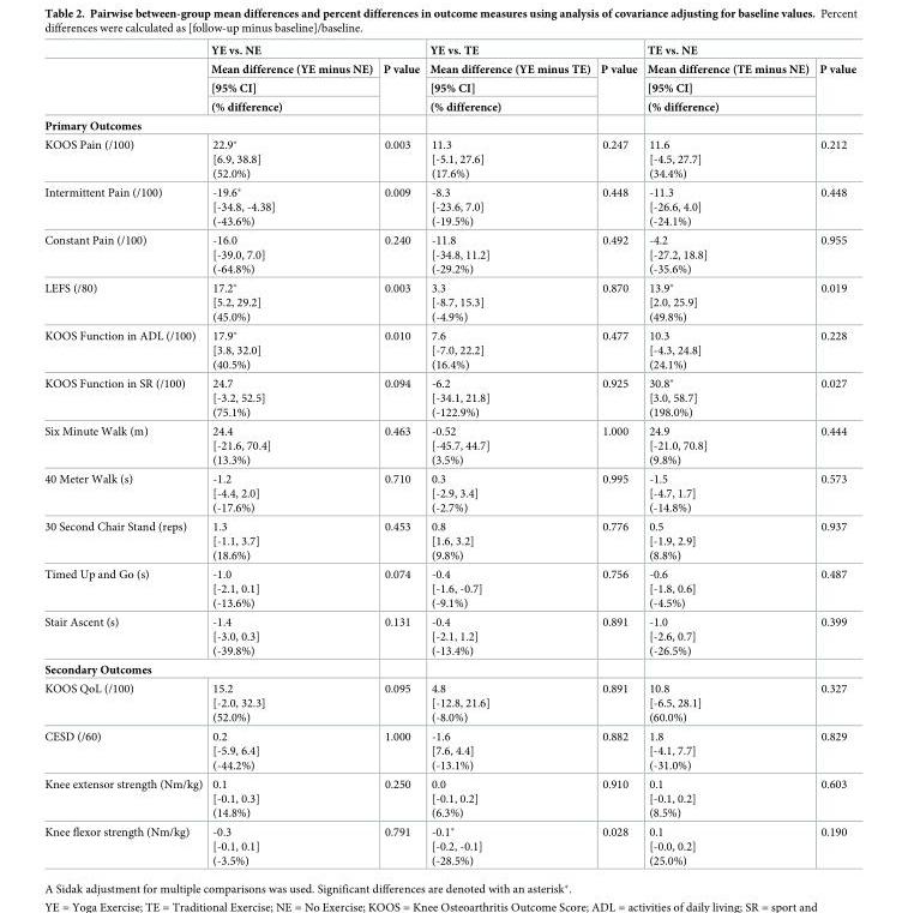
<table><thead><tr><td rowspan="4"></td><td colspan="2">YE vs. NE</td><td colspan="2">YE vs. TE</td><td colspan="2">TE vs. NE</td></tr><tr><td rowspan="3">Mean difference (YE minus NE) [95% CI] (% difference)</td><td rowspan="3">P value</td><td rowspan="3">Mean difference (YE minus TE) [95% CI] (% difference)</td><td rowspan="3">P value</td><td rowspan="3">Mean difference (TE minus NE) [95% CI] (% difference)</td><td rowspan="3">P value</td></tr><tr></tr><tr></tr></thead><tbody><tr><td colspan="7">Primary Outcomes</td></tr><tr><td>KOOS Pain (/100)</td><td>22.9* [6.9, 38.8] (52.0%)</td><td>0.003</td><td>11.3 [-5.1, 27.6] (17.6%)</td><td>0.247</td><td>11.6 [-4.5, 27.7] (34.4%)</td><td>0.212</td></tr><tr><td>Intermittent Pain (/100)</td><td>-19.6* [-34.8, -4.38] (-43.6%)</td><td>0.009</td><td>-8.3 [-23.6, 7.0] (-19.5%)</td><td>0.448</td><td>-11.3 [-26.6, 4.0] (-24.1%)</td><td>0.448</td></tr><tr><td>Constant Pain (/100)</td><td>-16.0 [-39.0, 7.0] (-64.8%)</td><td>0.240</td><td>-11.8 [-34.8, 11.2] (-29.2%)</td><td>0.492</td><td>-4.2 [-27.2, 18.8] (-35.6%)</td><td>0.955</td></tr><tr><td>LEFS (/80)</td><td>17.2* [5.2, 29.2] (45.0%)</td><td>0.003</td><td>3.3 [-8.7, 15.3] (-4.9%)</td><td>0.870</td><td>13.9* [2.0, 25.9] (49.8%)</td><td>0.019</td></tr><tr><td>KOOS Function in ADL (/100)</td><td>17.9* [3.8, 32.0] (40.5%)</td><td>0.010</td><td>7.6 [-7.0, 22.2] (16.4%)</td><td>0.477</td><td>10.3 [-4.3, 24.8] (24.1%)</td><td>0.228</td></tr><tr><td>KOOS Function in SR (/100)</td><td>24.7 [-3.2, 52.5] (75.1%)</td><td>0.094</td><td>-6.2 [-34.1, 21.8] (-122.9%)</td><td>0.925</td><td>30.8* [3.0, 58.7] (198.0%)</td><td>0.027</td></tr><tr><td>Six Minute Walk (m)</td><td>24.4 [-21.6, 70.4] (13.3%)</td><td>0.463</td><td>-0.52 [-45.7, 44.7] (3.5%)</td><td>1.000</td><td>24.9 [-21.0, 70.8] (9.8%)</td><td>0.444</td></tr><tr><td>40 Meter Walk (s)</td><td>-1.2 [-4.4, 2.0] (-17.6%)</td><td>0.710</td><td>0.3 [-2.9, 3.4] (-2.7%)</td><td>0.995</td><td>-1.5 [-4.7, 1.7] (-14.8%)</td><td>0.573</td></tr><tr><td>30 Second Chair Stand (reps)</td><td>1.3 [-1.1, 3.7] (18.6%)</td><td>0.453</td><td>0.8 [1.6, 3.2] (9.8%)</td><td>0.776</td><td>0.5 [-1.9, 2.9] (8.8%)</td><td>0.937</td></tr><tr><td>Timed Up and Go (s)</td><td>-1.0 [-2.1, 0.1] (-13.6%)</td><td>0.074</td><td>-0.4 [-1.6, -0.7] (-9.1%)</td><td>0.756</td><td>-0.6 [-1.8, 0.6] (-4.5%)</td><td>0.487</td></tr><tr><td>Stair Ascent (s)</td><td>-1.4 [-3.0, 0.3] (-39.8%)</td><td>0.131</td><td>-0.4 [-2.1, 1.2] (-13.4%)</td><td>0.891</td><td>-1.0 [-2.6, 0.7] (-26.5%)</td><td>0.399</td></tr><tr><td colspan="7">Secondary Outcomes</td></tr><tr><td>KOOS QoL (/100)</td><td>15.2 [-2.0, 32.3] (52.0%)</td><td>0.095</td><td>4.8 [-12.8, 21.6] (-8.0%)</td><td>0.891</td><td>10.8 [-6.5, 28.1] (60.0%)</td><td>0.327</td></tr><tr><td>CESD (/60)</td><td>0.2 [-5.9, 6.4] (-44.2%)</td><td>1.000</td><td>-1.6 [7.6, 4.4] (-13.1%)</td><td>0.882</td><td>1.8 [-4.1, 7.7] (-31.0%)</td><td>0.829</td></tr><tr><td>Knee extensor strength (Nm/kg)</td><td>0.1 [-0.1, 0.3] (14.8%)</td><td>0.250</td><td>0.0 [-0.1, 0.2] (6.3%)</td><td>0.910</td><td>0.1 [-0.1, 0.2] (8.5%)</td><td>0.603</td></tr><tr><td>Knee flexor strength (Nm/kg)</td><td>-0.3 [-0.1, 0.1] (-3.5%)</td><td>0.791</td><td>-0.1* [-0.2, -0.1] (-28.5%)</td><td>0.028</td><td>0.1 [-0.0, 0.2] (25.0%)</td><td>0.190</td></tr></tbody></table>